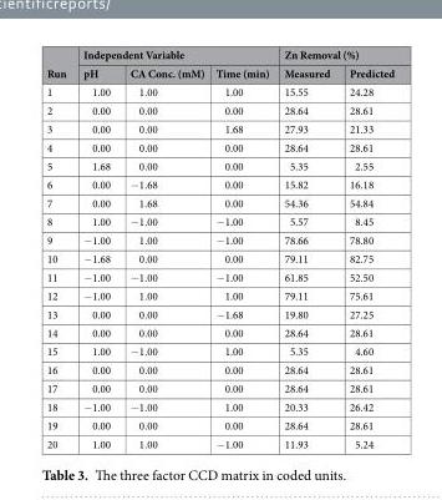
<table><thead><tr><td rowspan="2">Run</td><td colspan="3">Independent Variable</td><td colspan="2">Zn Removal (%)</td></tr><tr><td>pH</td><td>CA Conc. (mM)</td><td>Time (min)</td><td>Measured</td><td>Predicted</td></tr></thead><tbody><tr><td>1</td><td>1.00</td><td>1.00</td><td>1.00</td><td>15.55</td><td>24.28</td></tr><tr><td>2</td><td>0.00</td><td>0.00</td><td>0.00</td><td>28.64</td><td>28.61</td></tr><tr><td>3</td><td>0.00</td><td>0.00</td><td>1.68</td><td>27.93</td><td>21.33</td></tr><tr><td>4</td><td>0.00</td><td>0.00</td><td>0.00</td><td>28.64</td><td>28.61</td></tr><tr><td>5</td><td>1.68</td><td>0.00</td><td>0.00</td><td>5.35</td><td>2.55</td></tr><tr><td>6</td><td>0.00</td><td>−1.68</td><td>0.00</td><td>15.82</td><td>16.18</td></tr><tr><td>7</td><td>0.00</td><td>1.68</td><td>0.00</td><td>54.36</td><td>54.84</td></tr><tr><td>8</td><td>1.00</td><td>−1.00</td><td>−1.00</td><td>5.57</td><td>8.45</td></tr><tr><td>9</td><td>−1.00</td><td>1.00</td><td>−1.00</td><td>78.66</td><td>78.80</td></tr><tr><td>10</td><td>−1.68</td><td>0.00</td><td>0.00</td><td>79.11</td><td>82.75</td></tr><tr><td>11</td><td>−1.00</td><td>−1.00</td><td>−1.00</td><td>61.85</td><td>52.50</td></tr><tr><td>12</td><td>−1.00</td><td>1.00</td><td>1.00</td><td>79.11</td><td>75.61</td></tr><tr><td>13</td><td>0.00</td><td>0.00</td><td>−1.68</td><td>19.80</td><td>27.25</td></tr><tr><td>14</td><td>0.00</td><td>0.00</td><td>0.00</td><td>28.64</td><td>28.61</td></tr><tr><td>15</td><td>1.00</td><td>−1.00</td><td>1.00</td><td>5.35</td><td>4.60</td></tr><tr><td>16</td><td>0.00</td><td>0.00</td><td>0.00</td><td>28.64</td><td>28.61</td></tr><tr><td>17</td><td>0.00</td><td>0.00</td><td>0.00</td><td>28.64</td><td>28.61</td></tr><tr><td>18</td><td>−1.00</td><td>−1.00</td><td>1.00</td><td>20.33</td><td>26.42</td></tr><tr><td>19</td><td>0.00</td><td>0.00</td><td>0.00</td><td>28.64</td><td>28.61</td></tr><tr><td>20</td><td>1.00</td><td>1.00</td><td>−1.00</td><td>11.93</td><td>5.24</td></tr></tbody></table>